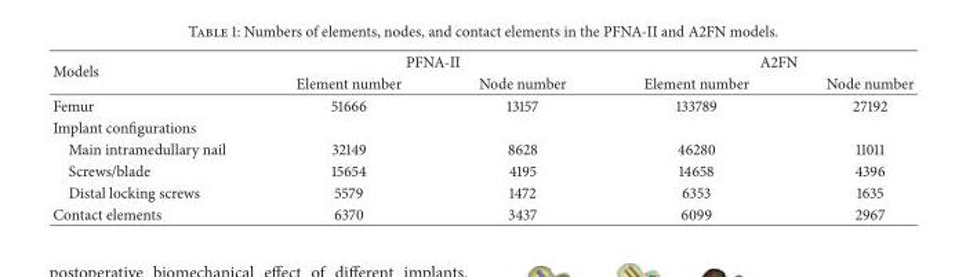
<table><thead><tr><td rowspan="2">Models</td><td colspan="2">PFNA-II</td><td colspan="2">A2FN</td></tr><tr><td>Element number</td><td>Node number</td><td>Element number</td><td>Node number</td></tr></thead><tbody><tr><td>Femur</td><td>51666</td><td>13157</td><td>133789</td><td>27192</td></tr><tr><td colspan="5">Implant configurations</td></tr><tr><td>Main intramedullary nail</td><td>32149</td><td>8628</td><td>46280</td><td>11011</td></tr><tr><td>Screws/blade</td><td>15654</td><td>4195</td><td>14658</td><td>4396</td></tr><tr><td>Distal locking screws</td><td>5579</td><td>1472</td><td>6353</td><td>1635</td></tr><tr><td>Contact elements</td><td>6370</td><td>3437</td><td>6099</td><td>2967</td></tr></tbody></table>